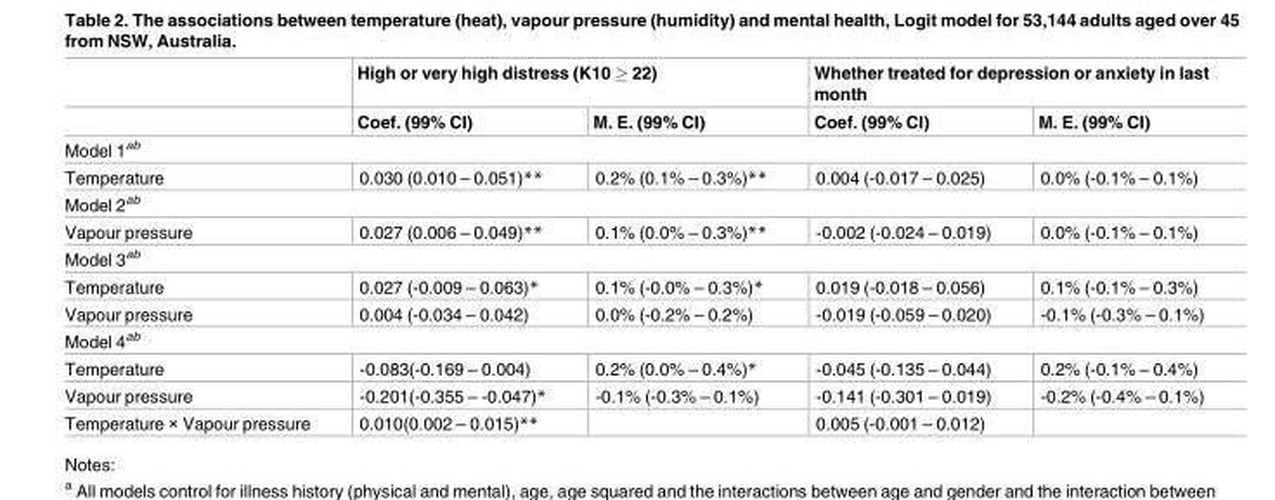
<table><thead><tr><td rowspan="2"></td><td colspan="2">High or very high distress (K10 ≥ 22)</td><td colspan="2">Whether treated for depression or anxiety in last month</td></tr><tr><td>Coef. (99% CI)</td><td>M. E. (99% CI)</td><td>Coef. (99% CI)</td><td>M. E. (99% CI)</td></tr></thead><tbody><tr><td colspan="5">Model 1<sup>ab</sup></td></tr><tr><td>Temperature</td><td>0.030 (0.010 – 0.051)**</td><td>0.2% (0.1% – 0.3%)**</td><td>0.004 (-0.017 – 0.025)</td><td>0.0% (-0.1% – 0.1%)</td></tr><tr><td colspan="5">Model 2<sup>ab</sup></td></tr><tr><td>Vapour pressure</td><td>0.027 (0.006 – 0.049)**</td><td>0.1% (0.0% – 0.3%)**</td><td>-0.002 (-0.024 – 0.019)</td><td>0.0% (-0.1% – 0.1%)</td></tr><tr><td colspan="5">Model 3<sup>ab</sup></td></tr><tr><td>Temperature</td><td>0.027 (-0.009 – 0.063)*</td><td>0.1% (-0.0% – 0.3%)*</td><td>0.019 (-0.018 – 0.056)</td><td>0.1% (-0.1% – 0.3%)</td></tr><tr><td>Vapour pressure</td><td>0.004 (-0.034 – 0.042)</td><td>0.0% (-0.2% – 0.2%)</td><td>-0.019 (-0.059 – 0.020)</td><td>-0.1% (-0.3% – 0.1%)</td></tr><tr><td colspan="5">Model 4<sup>ab</sup></td></tr><tr><td>Temperature</td><td>-0.083(-0.169 – 0.004)</td><td>0.2% (0.0% – 0.4%)*</td><td>-0.045 (-0.135 – 0.044)</td><td>0.2% (-0.1% – 0.4%)</td></tr><tr><td>Vapour pressure</td><td>-0.201(-0.355 – -0.047)*</td><td>-0.1% (-0.3% – 0.1%)</td><td>-0.141 (-0.301 – 0.019)</td><td>-0.2% (-0.4% – 0.1%)</td></tr><tr><td>Temperature × Vapour pressure</td><td>0.010(0.002 – 0.015)**</td><td></td><td>0.005 (-0.001 – 0.012)</td><td></td></tr></tbody></table>